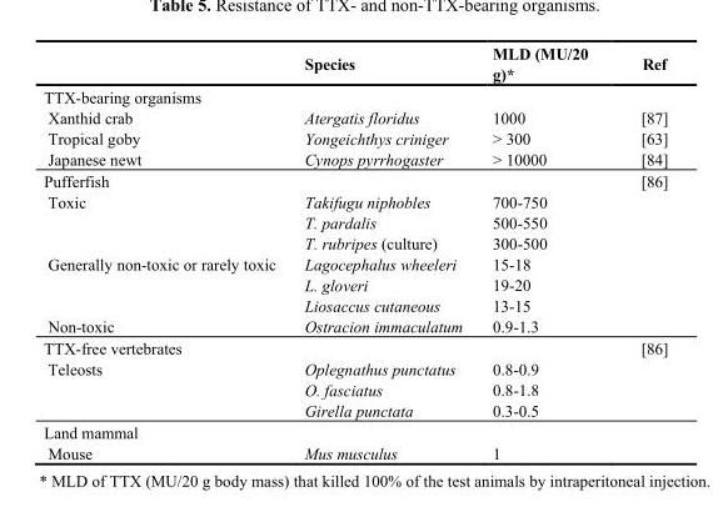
<table><thead><tr><td></td><td>Species</td><td>MLD (MU/20 g)*</td><td>Ref</td></tr></thead><tbody><tr><td colspan="4">TTX-bearing organisms</td></tr><tr><td>Xanthid crab</td><td>Atergatis floridus</td><td>1000</td><td>[87]</td></tr><tr><td>Tropical goby</td><td>Yongeichthys criniger</td><td>&gt; 300</td><td>[63]</td></tr><tr><td>Japanese newt</td><td>Cynops pyrrhogaster</td><td>&gt; 10000</td><td>[84]</td></tr><tr><td>Pufferfish</td><td></td><td></td><td>[86]</td></tr><tr><td rowspan="3">Toxic</td><td>Takifugu niphobles</td><td>700-750</td><td></td></tr><tr><td>T. pardalis</td><td>500-550</td><td></td></tr><tr><td>T. rubripes (culture)</td><td>300-500</td><td></td></tr><tr><td rowspan="3">Generally non-toxic or rarely toxic</td><td>Lagocephalus wheeleri</td><td>15-18</td><td></td></tr><tr><td>L. gloveri</td><td>19-20</td><td></td></tr><tr><td>Liosaccus cutaneous</td><td>13-15</td><td></td></tr><tr><td>Non-toxic</td><td>Ostracion immaculatum</td><td>0.9-1.3</td><td></td></tr><tr><td>TTX-free vertebrates</td><td></td><td></td><td>[86]</td></tr><tr><td rowspan="3">Teleosts</td><td>Oplegnathus punctatus</td><td>0.8-0.9</td><td></td></tr><tr><td>O. fasciatus</td><td>0.8-1.8</td><td></td></tr><tr><td>Girella punctata</td><td>0.3-0.5</td><td></td></tr><tr><td colspan="4">Land mammal</td></tr><tr><td>Mouse</td><td>Mus musculus</td><td>1</td><td></td></tr></tbody></table>